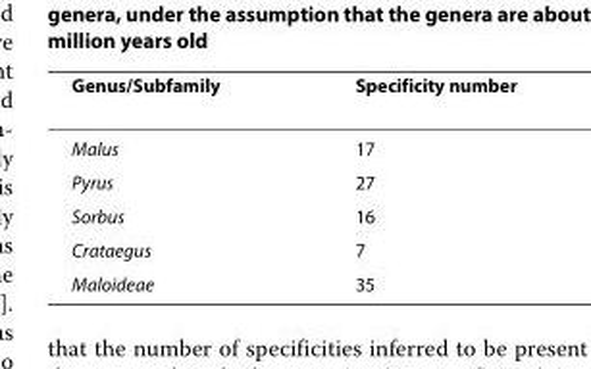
<table><thead><tr><td>Genus/Subfamily</td><td>Specificity number</td></tr></thead><tbody><tr><td>Malus</td><td>17</td></tr><tr><td>Pyrus</td><td>27</td></tr><tr><td>Sorbus</td><td>16</td></tr><tr><td>Crataegus</td><td>7</td></tr><tr><td>Maloideae</td><td>35</td></tr></tbody></table>